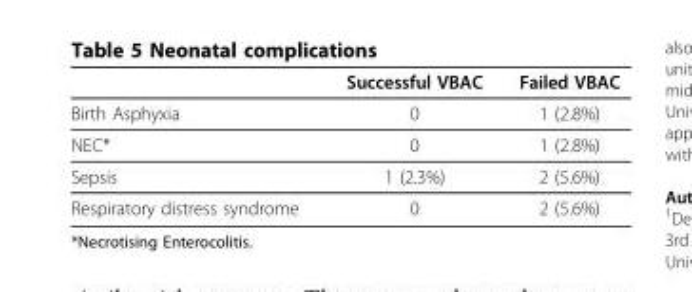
<table><thead><tr><td></td><td>Successful VBAC</td><td>Failed VBAC</td></tr></thead><tbody><tr><td>Birth Asphyxia</td><td>0</td><td>1 (2.8%)</td></tr><tr><td>NEC*</td><td>0</td><td>1 (2.8%)</td></tr><tr><td>Sepsis</td><td>1 (2.3%)</td><td>2 (5.6%)</td></tr><tr><td>Respiratory distress syndrome</td><td>0</td><td>2 (5.6%)</td></tr></tbody></table>